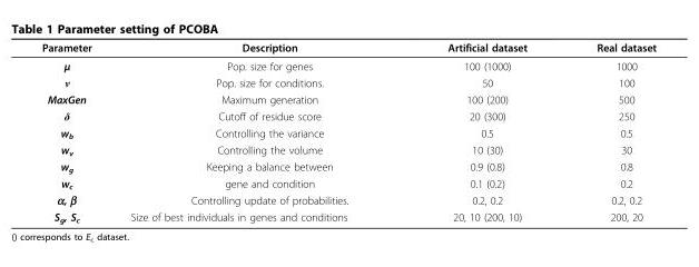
<table><thead><tr><td>Parameter</td><td>Description</td><td>Artificial dataset</td><td>Real dataset</td></tr></thead><tbody><tr><td>μ</td><td>Pop. size for genes</td><td>100 (1000)</td><td>1000</td></tr><tr><td>ν</td><td>Pop. size for conditions.</td><td>50</td><td>100</td></tr><tr><td>MaxGen</td><td>Maximum generation</td><td>100 (200)</td><td>500</td></tr><tr><td>δ</td><td>Cutoff of residue score</td><td>20 (300)</td><td>250</td></tr><tr><td>w<sub>b</sub></td><td>Controlling the variance</td><td>0.5</td><td>0.5</td></tr><tr><td>w<sub>v</sub></td><td>Controlling the volume</td><td>10 (30)</td><td>30</td></tr><tr><td>w<sub>g</sub></td><td>Keeping a balance between</td><td>0.9 (0.8)</td><td>0.8</td></tr><tr><td>w<sub>c</sub></td><td>gene and condition</td><td>0.1 (0.2)</td><td>0.2</td></tr><tr><td>α, β</td><td>Controlling update of probabilities.</td><td>0.2, 0.2</td><td>0.2, 0.2</td></tr><tr><td>S<sub>g</sub>, S<sub>c</sub></td><td>Size of best individuals in genes and conditions</td><td>20, 10 (200, 10)</td><td>200, 20</td></tr></tbody></table>